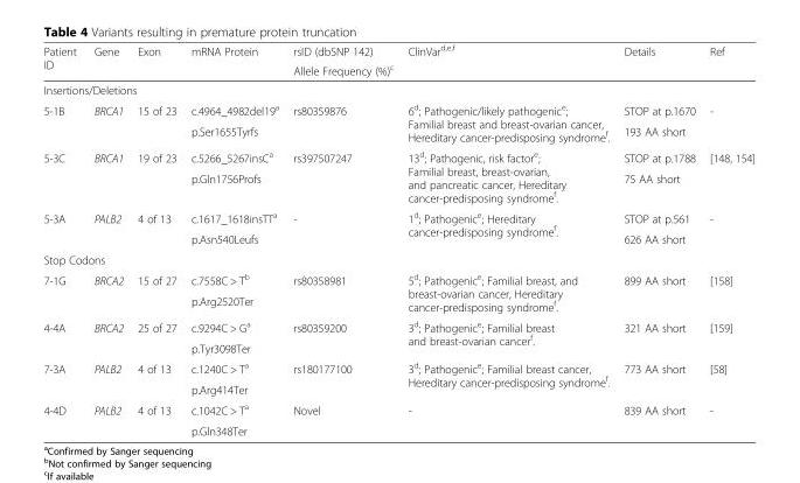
<table><thead><tr><td rowspan="2">Patient ID</td><td rowspan="2">Gene</td><td rowspan="2">Exon</td><td rowspan="2">mRNA Protein</td><td rowspan="2">rsID (dbSNP 142) Allele Frequency (%)<sup>c</sup></td><td rowspan="2">ClinVar<sup>d,e,f</sup></td><td rowspan="2">Details</td><td rowspan="2">Ref</td></tr><tr></tr></thead><tbody><tr><td colspan="8">Insertions/Deletions</td></tr><tr><td rowspan="2">5-1B</td><td rowspan="2">BRCA1</td><td rowspan="2">15 of 23</td><td>c.4964_4982del19<sup>a</sup></td><td rowspan="2">rs80359876</td><td rowspan="2">6<sup>d</sup>; Pathogenic/likely pathogenic<sup>e</sup>; Familial breast and breast-ovarian cancer, Hereditary cancer-predisposing syndrome<sup>f</sup>.</td><td>STOP at p.1670</td><td rowspan="2">-</td></tr><tr><td>p.Ser1655Tyrfs</td><td>193 AA short</td></tr><tr><td rowspan="2">5-3C</td><td rowspan="2">BRCA1</td><td rowspan="2">19 of 23</td><td>c.5266_5267insC<sup>a</sup></td><td rowspan="2">rs397507247</td><td rowspan="2">13<sup>d</sup>; Pathogenic, risk factor<sup>e</sup>; Familial breast, breast-ovarian, and pancreatic cancer, Hereditary cancer-predisposing syndrome<sup>f</sup>.</td><td>STOP at p.1788</td><td rowspan="2">[148, 154]</td></tr><tr><td>p.Gln1756Profs</td><td>75 AA short</td></tr><tr><td rowspan="2">5-3A</td><td rowspan="2">PALB2</td><td rowspan="2">4 of 13</td><td>c.1617_1618insTT<sup>a</sup></td><td rowspan="2">-</td><td rowspan="2">1<sup>d</sup>; Pathogenic<sup>e</sup>; Hereditary cancer-predisposing syndrome<sup>f</sup>.</td><td>STOP at p.561</td><td rowspan="2">-</td></tr><tr><td>p.Asn540Leufs</td><td>626 AA short</td></tr><tr><td colspan="8">Stop Codons</td></tr><tr><td rowspan="2">7-1G</td><td rowspan="2">BRCA2</td><td rowspan="2">15 of 27</td><td>c.7558C &gt; T<sup>b</sup></td><td rowspan="2">rs80358981</td><td rowspan="2">5<sup>d</sup>; Pathogenic<sup>e</sup>; Familial breast, and breast-ovarian cancer, Hereditary cancer-predisposing syndrome<sup>f</sup>.</td><td rowspan="2">899 AA short</td><td rowspan="2">[158]</td></tr><tr><td>p.Arg2520Ter</td></tr><tr><td rowspan="2">4-4A</td><td rowspan="2">BRCA2</td><td rowspan="2">25 of 27</td><td>c.9294C &gt; G<sup>a</sup></td><td rowspan="2">rs80359200</td><td rowspan="2">3<sup>d</sup>; Pathogenic<sup>e</sup>; Familial breast and breast-ovarian cancer<sup>f</sup>.</td><td rowspan="2">321 AA short</td><td rowspan="2">[159]</td></tr><tr><td>p.Tyr3098Ter</td></tr><tr><td rowspan="2">7-3A</td><td rowspan="2">PALB2</td><td rowspan="2">4 of 13</td><td>c.1240C &gt; T<sup>a</sup></td><td rowspan="2">rs180177100</td><td rowspan="2">3<sup>d</sup>; Pathogenic<sup>e</sup>; Familial breast cancer, Hereditary cancer-predisposing syndrome<sup>f</sup>.</td><td rowspan="2">773 AA short</td><td rowspan="2">[58]</td></tr><tr><td>p.Arg414Ter</td></tr><tr><td rowspan="2">4-4D</td><td rowspan="2">PALB2</td><td rowspan="2">4 of 13</td><td>c.1042C &gt; T<sup>a</sup></td><td rowspan="2">Novel</td><td rowspan="2">-</td><td rowspan="2">839 AA short</td><td rowspan="2">-</td></tr><tr><td>p.Gln348Ter</td></tr></tbody></table>